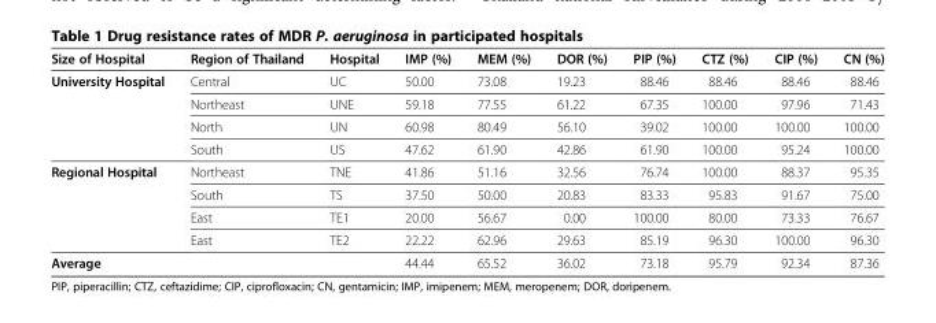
<table><thead><tr><td>Size of Hospital</td><td>Region of Thailand</td><td>Hospital</td><td>IMP (%)</td><td>MEM (%)</td><td>DOR (%)</td><td>PIP (%)</td><td>CTZ (%)</td><td>CIP (%)</td><td>CN (%)</td></tr></thead><tbody><tr><td rowspan="4">University Hospital</td><td>Central</td><td>UC</td><td>50.00</td><td>73.08</td><td>19.23</td><td>88.46</td><td>88.46</td><td>88.46</td><td>88.46</td></tr><tr><td>Northeast</td><td>UNE</td><td>59.18</td><td>77.55</td><td>61.22</td><td>67.35</td><td>100.00</td><td>97.96</td><td>71.43</td></tr><tr><td>North</td><td>UN</td><td>60.98</td><td>80.49</td><td>56.10</td><td>39.02</td><td>100.00</td><td>100.00</td><td>100.00</td></tr><tr><td>South</td><td>US</td><td>47.62</td><td>61.90</td><td>42.86</td><td>61.90</td><td>100.00</td><td>95.24</td><td>100.00</td></tr><tr><td rowspan="4">Regional Hospital</td><td>Northeast</td><td>TNE</td><td>41.86</td><td>51.16</td><td>32.56</td><td>76.74</td><td>100.00</td><td>88.37</td><td>95.35</td></tr><tr><td>South</td><td>TS</td><td>37.50</td><td>50.00</td><td>20.83</td><td>83.33</td><td>95.83</td><td>91.67</td><td>75.00</td></tr><tr><td>East</td><td>TE1</td><td>20.00</td><td>56.67</td><td>0.00</td><td>100.00</td><td>80.00</td><td>73.33</td><td>76.67</td></tr><tr><td>East</td><td>TE2</td><td>22.22</td><td>62.96</td><td>29.63</td><td>85.19</td><td>96.30</td><td>100.00</td><td>96.30</td></tr><tr><td>Average</td><td></td><td></td><td>44.44</td><td>65.52</td><td>36.02</td><td>73.18</td><td>95.79</td><td>92.34</td><td>87.36</td></tr></tbody></table>